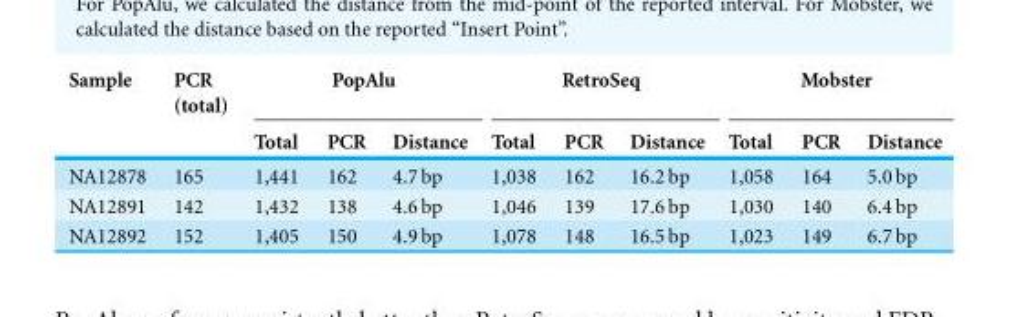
<table><thead><tr><td rowspan="2">Sample</td><td rowspan="2">PCR (total)</td><td colspan="3">PopAlu</td><td colspan="3">RetroSeq</td><td colspan="3">Mobster</td></tr><tr><td>Total</td><td>PCR</td><td>Distance</td><td>Total</td><td>PCR</td><td>Distance</td><td>Total</td><td>PCR</td><td>Distance</td></tr></thead><tbody><tr><td>NA12878</td><td>165</td><td>1,441</td><td>162</td><td>4.7 bp</td><td>1,038</td><td>162</td><td>16.2 bp</td><td>1,058</td><td>164</td><td>5.0 bp</td></tr><tr><td>NA12891</td><td>142</td><td>1,432</td><td>138</td><td>4.6 bp</td><td>1,046</td><td>139</td><td>17.6 bp</td><td>1,030</td><td>140</td><td>6.4 bp</td></tr><tr><td>NA12892</td><td>152</td><td>1,405</td><td>150</td><td>4.9 bp</td><td>1,078</td><td>148</td><td>16.5 bp</td><td>1,023</td><td>149</td><td>6.7 bp</td></tr></tbody></table>